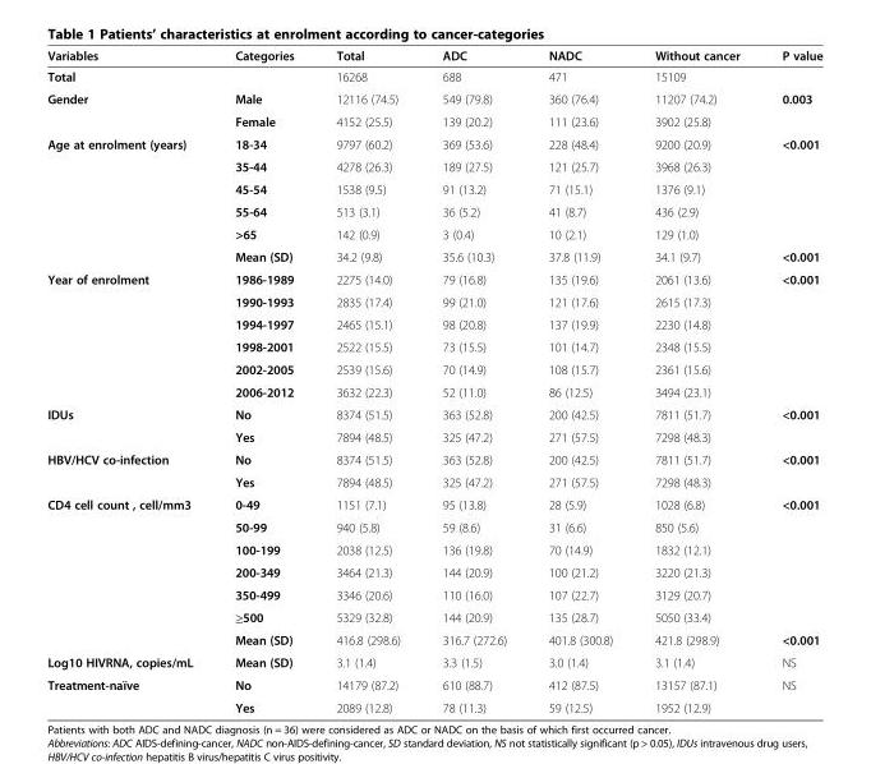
<table><thead><tr><td>Variables</td><td>Categories</td><td>Total</td><td>ADC</td><td>NADC</td><td>Without cancer</td><td>P value</td></tr></thead><tbody><tr><td>Total</td><td></td><td>16268</td><td>688</td><td>471</td><td>15109</td><td></td></tr><tr><td rowspan="2">Gender</td><td>Male</td><td>12116 (74.5)</td><td>549 (79.8)</td><td>360 (76.4)</td><td>11207 (74.2)</td><td>0.003</td></tr><tr><td>Female</td><td>4152 (25.5)</td><td>139 (20.2)</td><td>111 (23.6)</td><td>3902 (25.8)</td><td></td></tr><tr><td rowspan="6">Age at enrolment (years)</td><td>18-34</td><td>9797 (60.2)</td><td>369 (53.6)</td><td>228 (48.4)</td><td>9200 (20.9)</td><td>&lt;0.001</td></tr><tr><td>35-44</td><td>4278 (26.3)</td><td>189 (27.5)</td><td>121 (25.7)</td><td>3968 (26.3)</td><td></td></tr><tr><td>45-54</td><td>1538 (9.5)</td><td>91 (13.2)</td><td>71 (15.1)</td><td>1376 (9.1)</td><td></td></tr><tr><td>55-64</td><td>513 (3.1)</td><td>36 (5.2)</td><td>41 (8.7)</td><td>436 (2.9)</td><td></td></tr><tr><td>&gt;65</td><td>142 (0.9)</td><td>3 (0.4)</td><td>10 (2.1)</td><td>129 (1.0)</td><td></td></tr><tr><td>Mean (SD)</td><td>34.2 (9.8)</td><td>35.6 (10.3)</td><td>37.8 (11.9)</td><td>34.1 (9.7)</td><td>&lt;0.001</td></tr><tr><td rowspan="6">Year of enrolment</td><td>1986-1989</td><td>2275 (14.0)</td><td>79 (16.8)</td><td>135 (19.6)</td><td>2061 (13.6)</td><td>&lt;0.001</td></tr><tr><td>1990-1993</td><td>2835 (17.4)</td><td>99 (21.0)</td><td>121 (17.6)</td><td>2615 (17.3)</td><td></td></tr><tr><td>1994-1997</td><td>2465 (15.1)</td><td>98 (20.8)</td><td>137 (19.9)</td><td>2230 (14.8)</td><td></td></tr><tr><td>1998-2001</td><td>2522 (15.5)</td><td>73 (15.5)</td><td>101 (14.7)</td><td>2348 (15.5)</td><td></td></tr><tr><td>2002-2005</td><td>2539 (15.6)</td><td>70 (14.9)</td><td>108 (15.7)</td><td>2361 (15.6)</td><td></td></tr><tr><td>2006-2012</td><td>3632 (22.3)</td><td>52 (11.0)</td><td>86 (12.5)</td><td>3494 (23.1)</td><td></td></tr><tr><td rowspan="2">IDUs</td><td>No</td><td>8374 (51.5)</td><td>363 (52.8)</td><td>200 (42.5)</td><td>7811 (51.7)</td><td>&lt;0.001</td></tr><tr><td>Yes</td><td>7894 (48.5)</td><td>325 (47.2)</td><td>271 (57.5)</td><td>7298 (48.3)</td><td></td></tr><tr><td rowspan="2">HBV/HCV co-infection</td><td>No</td><td>8374 (51.5)</td><td>363 (52.8)</td><td>200 (42.5)</td><td>7811 (51.7)</td><td>&lt;0.001</td></tr><tr><td>Yes</td><td>7894 (48.5)</td><td>325 (47.2)</td><td>271 (57.5)</td><td>7298 (48.3)</td><td></td></tr><tr><td rowspan="7">CD4 cell count , cell/mm3</td><td>0-49</td><td>1151 (7.1)</td><td>95 (13.8)</td><td>28 (5.9)</td><td>1028 (6.8)</td><td>&lt;0.001</td></tr><tr><td>50-99</td><td>940 (5.8)</td><td>59 (8.6)</td><td>31 (6.6)</td><td>850 (5.6)</td><td></td></tr><tr><td>100-199</td><td>2038 (12.5)</td><td>136 (19.8)</td><td>70 (14.9)</td><td>1832 (12.1)</td><td></td></tr><tr><td>200-349</td><td>3464 (21.3)</td><td>144 (20.9)</td><td>100 (21.2)</td><td>3220 (21.3)</td><td></td></tr><tr><td>350-499</td><td>3346 (20.6)</td><td>110 (16.0)</td><td>107 (22.7)</td><td>3129 (20.7)</td><td></td></tr><tr><td>≥500</td><td>5329 (32.8)</td><td>144 (20.9)</td><td>135 (28.7)</td><td>5050 (33.4)</td><td></td></tr><tr><td>Mean (SD)</td><td>416.8 (298.6)</td><td>316.7 (272.6)</td><td>401.8 (300.8)</td><td>421.8 (298.9)</td><td>&lt;0.001</td></tr><tr><td>Log10 HIVRNA, copies/mL</td><td>Mean (SD)</td><td>3.1 (1.4)</td><td>3.3 (1.5)</td><td>3.0 (1.4)</td><td>3.1 (1.4)</td><td>NS</td></tr><tr><td rowspan="2">Treatment-naïve</td><td>No</td><td>14179 (87.2)</td><td>610 (88.7)</td><td>412 (87.5)</td><td>13157 (87.1)</td><td>NS</td></tr><tr><td>Yes</td><td>2089 (12.8)</td><td>78 (11.3)</td><td>59 (12.5)</td><td>1952 (12.9)</td><td></td></tr></tbody></table>